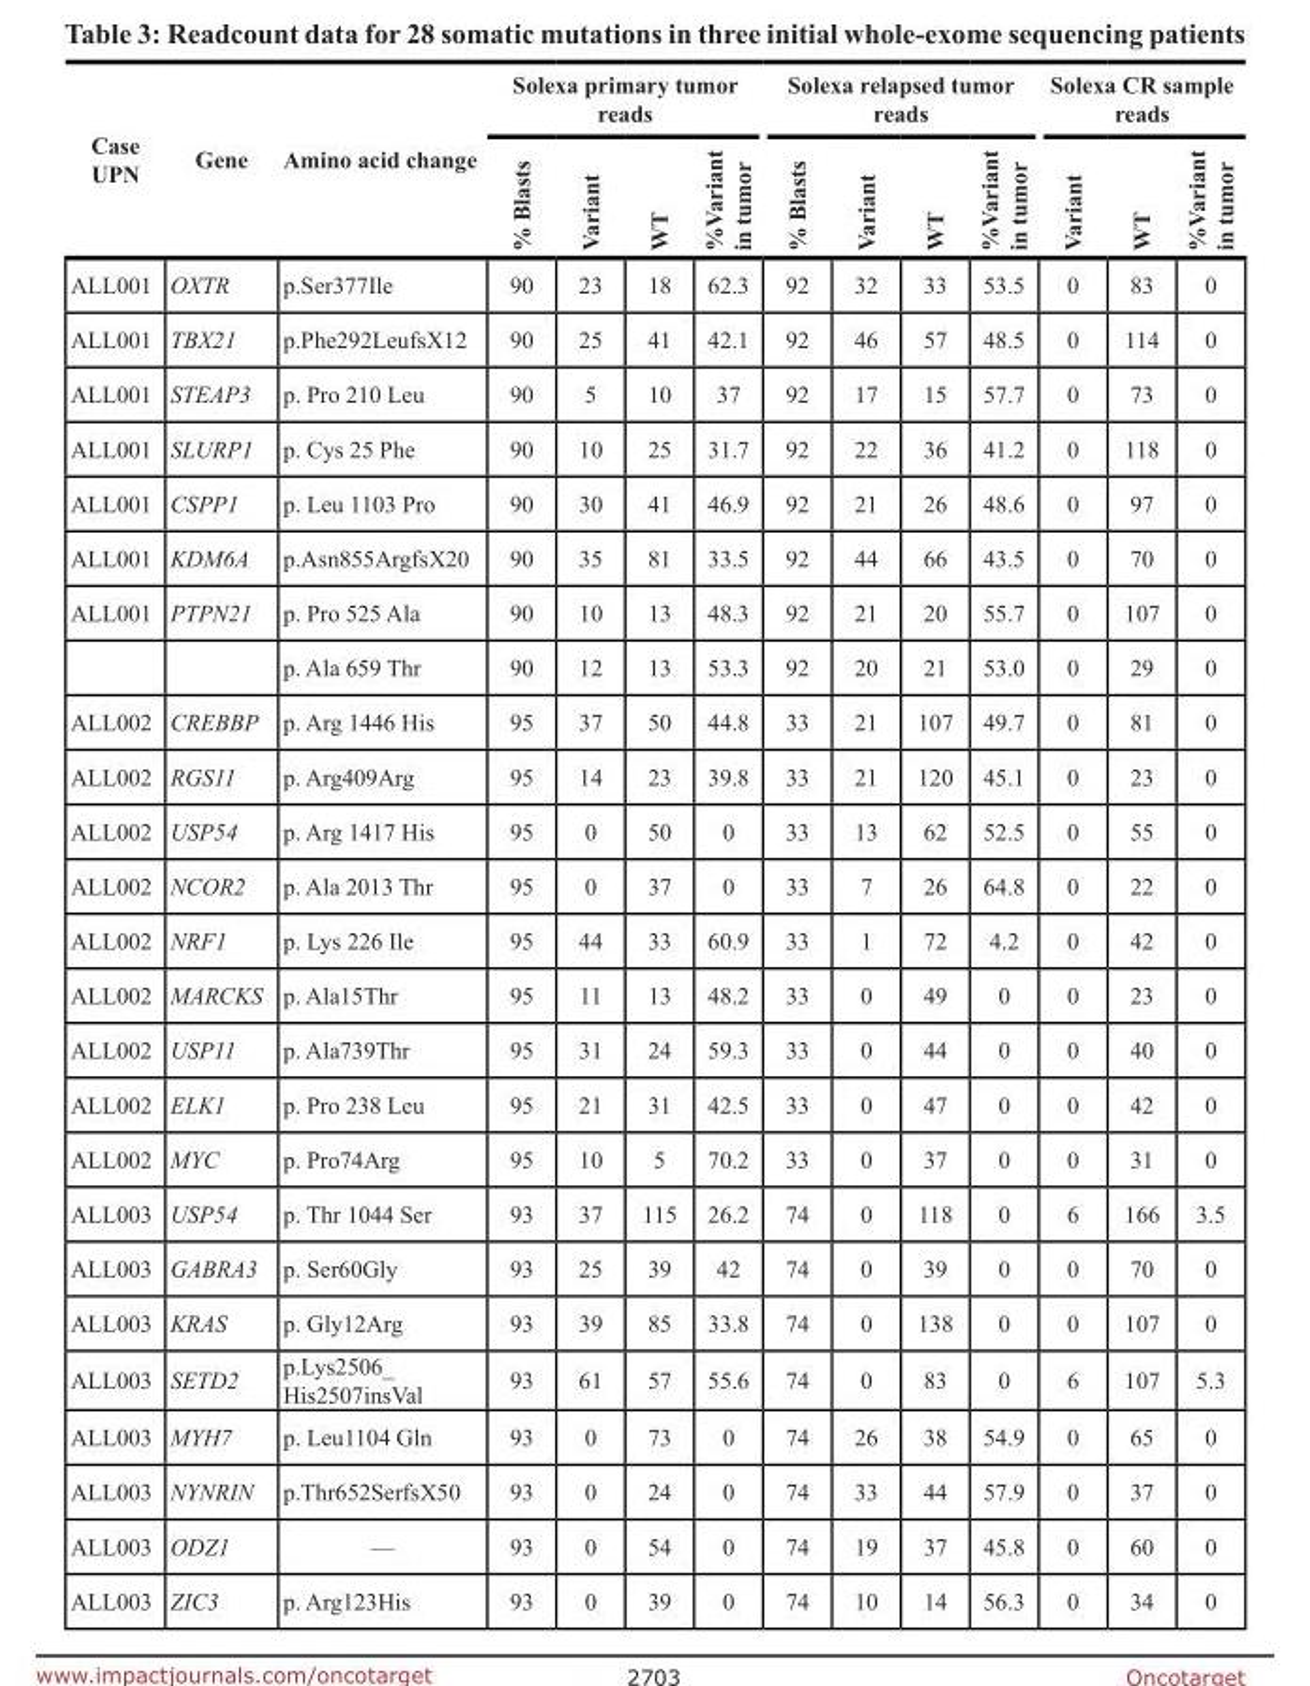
<table><thead><tr><td rowspan="2">Case UPN</td><td rowspan="2">Gene</td><td rowspan="2">Amino acid change</td><td colspan="4">Solexa primary tumor reads</td><td colspan="4">Solexa relapsed tumor reads</td><td colspan="3">Solexa CR sample reads</td></tr><tr><td>% Blasts</td><td>Variant</td><td>WT</td><td>%Variant in tumor</td><td>% Blasts</td><td>Variant</td><td>WT</td><td>%Variant in tumor</td><td>Variant</td><td>WT</td><td>%Variant in tumor</td></tr></thead><tbody><tr><td>ALL001</td><td>OXTR</td><td>p.Ser377Ile</td><td>90</td><td>23</td><td>18</td><td>62.3</td><td>92</td><td>32</td><td>33</td><td>53.5</td><td>0</td><td>83</td><td>0</td></tr><tr><td>ALL001</td><td>TBX21</td><td>p.Phe292LeufsX12</td><td>90</td><td>25</td><td>41</td><td>42.1</td><td>92</td><td>46</td><td>57</td><td>48.5</td><td>0</td><td>114</td><td>0</td></tr><tr><td>ALL001</td><td>STEAP3</td><td>p. Pro 210 Leu</td><td>90</td><td>5</td><td>10</td><td>37</td><td>92</td><td>17</td><td>15</td><td>57.7</td><td>0</td><td>73</td><td>0</td></tr><tr><td>ALL001</td><td>SLURP1</td><td>p. Cys 25 Phe</td><td>90</td><td>10</td><td>25</td><td>31.7</td><td>92</td><td>22</td><td>36</td><td>41.2</td><td>0</td><td>118</td><td>0</td></tr><tr><td>ALL001</td><td>CSPP1</td><td>p. Leu 1103 Pro</td><td>90</td><td>30</td><td>41</td><td>46.9</td><td>92</td><td>21</td><td>26</td><td>48.6</td><td>0</td><td>97</td><td>0</td></tr><tr><td>ALL001</td><td>KDM6A</td><td>p.Asn855ArgfsX20</td><td>90</td><td>35</td><td>81</td><td>33.5</td><td>92</td><td>44</td><td>66</td><td>43.5</td><td>0</td><td>70</td><td>0</td></tr><tr><td rowspan="2">ALL001</td><td>PTPN21</td><td>p. Pro 525 Ala</td><td>90</td><td>10</td><td>13</td><td>48.3</td><td>92</td><td>21</td><td>20</td><td>55.7</td><td>0</td><td>107</td><td>0</td></tr><tr><td></td><td>p. Ala 659 Thr</td><td>90</td><td>12</td><td>13</td><td>53.3</td><td>92</td><td>20</td><td>21</td><td>53.0</td><td>0</td><td>29</td><td>0</td></tr><tr><td>ALL002</td><td>CREBBP</td><td>p. Arg 1446 His</td><td>95</td><td>37</td><td>50</td><td>44.8</td><td>33</td><td>21</td><td>107</td><td>49.7</td><td>0</td><td>81</td><td>0</td></tr><tr><td>ALL002</td><td>RGS11</td><td>p. Arg409Arg</td><td>95</td><td>14</td><td>23</td><td>39.8</td><td>33</td><td>21</td><td>120</td><td>45.1</td><td>0</td><td>23</td><td>0</td></tr><tr><td>ALL002</td><td>USP54</td><td>p. Arg 1417 His</td><td>95</td><td>0</td><td>50</td><td>0</td><td>33</td><td>13</td><td>62</td><td>52.5</td><td>0</td><td>55</td><td>0</td></tr><tr><td>ALL002</td><td>NCOR2</td><td>p. Ala 2013 Thr</td><td>95</td><td>0</td><td>37</td><td>0</td><td>33</td><td>7</td><td>26</td><td>64.8</td><td>0</td><td>22</td><td>0</td></tr><tr><td>ALL002</td><td>NRF1</td><td>p. Lys 226 Ile</td><td>95</td><td>44</td><td>33</td><td>60.9</td><td>33</td><td>1</td><td>72</td><td>4.2</td><td>0</td><td>42</td><td>0</td></tr><tr><td>ALL002</td><td>MARCKS</td><td>p. Ala15Thr</td><td>95</td><td>11</td><td>13</td><td>48.2</td><td>33</td><td>0</td><td>49</td><td>0</td><td>0</td><td>23</td><td>0</td></tr><tr><td>ALL002</td><td>USP11</td><td>p. Ala739Thr</td><td>95</td><td>31</td><td>24</td><td>59.3</td><td>33</td><td>0</td><td>44</td><td>0</td><td>0</td><td>40</td><td>0</td></tr><tr><td>ALL002</td><td>ELK1</td><td>p. Pro 238 Leu</td><td>95</td><td>21</td><td>31</td><td>42.5</td><td>33</td><td>0</td><td>47</td><td>0</td><td>0</td><td>42</td><td>0</td></tr><tr><td>ALL002</td><td>MYC</td><td>p. Pro74Arg</td><td>95</td><td>10</td><td>5</td><td>70.2</td><td>33</td><td>0</td><td>37</td><td>0</td><td>0</td><td>31</td><td>0</td></tr><tr><td>ALL003</td><td>USP54</td><td>p. Thr 1044 Ser</td><td>93</td><td>37</td><td>115</td><td>26.2</td><td>74</td><td>0</td><td>118</td><td>0</td><td>6</td><td>166</td><td>3.5</td></tr><tr><td>ALL003</td><td>GABRA3</td><td>p. Ser60Gly</td><td>93</td><td>25</td><td>39</td><td>42</td><td>74</td><td>0</td><td>39</td><td>0</td><td>0</td><td>70</td><td>0</td></tr><tr><td>ALL003</td><td>KRAS</td><td>p. Gly12Arg</td><td>93</td><td>39</td><td>85</td><td>33.8</td><td>74</td><td>0</td><td>138</td><td>0</td><td>0</td><td>107</td><td>0</td></tr><tr><td>ALL003</td><td>SETD2</td><td>p.Lys2506_ His2507insVal</td><td>93</td><td>61</td><td>57</td><td>55.6</td><td>74</td><td>0</td><td>83</td><td>0</td><td>6</td><td>107</td><td>5.3</td></tr><tr><td>ALL003</td><td>MYH7</td><td>p. Leu1104 Gln</td><td>93</td><td>0</td><td>73</td><td>0</td><td>74</td><td>26</td><td>38</td><td>54.9</td><td>0</td><td>65</td><td>0</td></tr><tr><td>ALL003</td><td>NYNRIN</td><td>p.Thr652SerfsX50</td><td>93</td><td>0</td><td>24</td><td>0</td><td>74</td><td>33</td><td>44</td><td>57.9</td><td>0</td><td>37</td><td>0</td></tr><tr><td>ALL003</td><td>ODZ1</td><td>—</td><td>93</td><td>0</td><td>54</td><td>0</td><td>74</td><td>19</td><td>37</td><td>45.8</td><td>0</td><td>60</td><td>0</td></tr><tr><td>ALL003</td><td>ZIC3</td><td>p. Arg123His</td><td>93</td><td>0</td><td>39</td><td>0</td><td>74</td><td>10</td><td>14</td><td>56.3</td><td>0</td><td>34</td><td>0</td></tr></tbody></table>